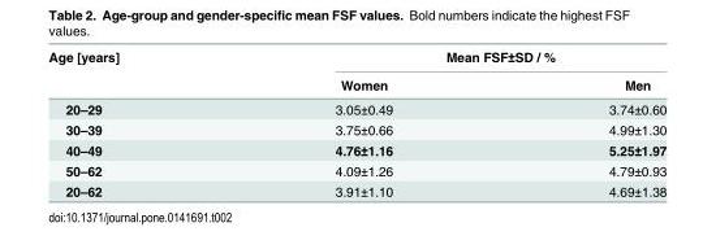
<table><thead><tr><td rowspan="2">Age [years]</td><td colspan="2">Mean FSF±SD / %</td></tr><tr><td>Women</td><td>Men</td></tr></thead><tbody><tr><td>20–29</td><td>3.05±0.49</td><td>3.74±0.60</td></tr><tr><td>30–39</td><td>3.75±0.66</td><td>4.99±1.30</td></tr><tr><td>40–49</td><td>4.76±1.16</td><td>5.25±1.97</td></tr><tr><td>50–62</td><td>4.09±1.26</td><td>4.79±0.93</td></tr><tr><td>20–62</td><td>3.91±1.10</td><td>4.69±1.38</td></tr></tbody></table>